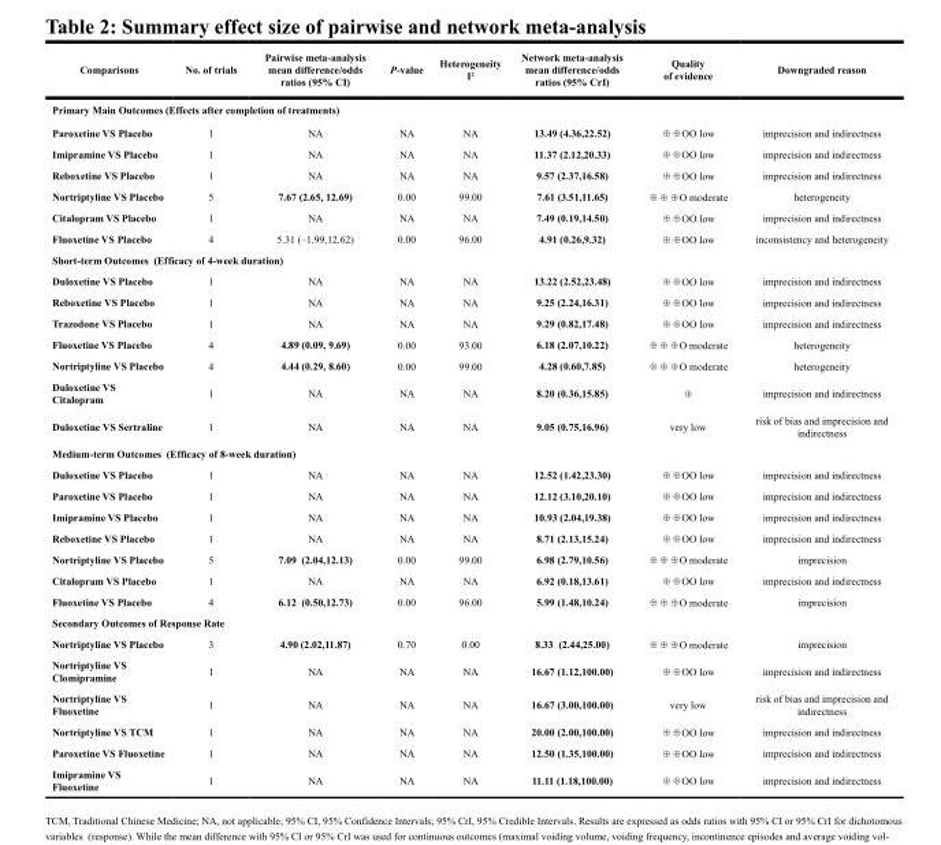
<table><thead><tr><td>Comparisons</td><td>No. of trials</td><td>Pairwise meta-analysis mean difference/odds ratios (95% CI)</td><td>P-value</td><td>Heterogeneity I<sup>2</sup></td><td>Network meta-analysis mean difference/odds ratios (95% CrI)</td><td>Quality of evidence</td><td>Downgraded reason</td></tr></thead><tbody><tr><td colspan="8">Primary Main Outcomes (Effects after completion of treatments)</td></tr><tr><td>Paroxetine VS Placebo</td><td>1</td><td>NA</td><td>NA</td><td>NA</td><td>13.49 (4.36,22.52)</td><td>⊕⊕OO low</td><td>imprecision and indirectness</td></tr><tr><td>Imipramine VS Placebo</td><td>1</td><td>NA</td><td>NA</td><td>NA</td><td>11.37 (2.12,20.33)</td><td>⊕⊕OO low</td><td>imprecision and indirectness</td></tr><tr><td>Reboxetine VS Placebo</td><td>1</td><td>NA</td><td>NA</td><td>NA</td><td>9.57 (2.37,16.58)</td><td>⊕⊕OO low</td><td>imprecision and indirectness</td></tr><tr><td>Nortriptyline VS Placebo</td><td>5</td><td>7.67 (2.65, 12.69)</td><td>0.00</td><td>99.00</td><td>7.61 (3.51,11.65)</td><td>⊕⊕⊕O moderate</td><td>heterogeneity</td></tr><tr><td>Citalopram VS Placebo</td><td>1</td><td>NA</td><td>NA</td><td>NA</td><td>7.49 (0.19,14.50)</td><td>⊕⊕OO low</td><td>imprecision and indirectness</td></tr><tr><td>Fluoxetine VS Placebo</td><td>4</td><td>5.31 (–1.99,12.62)</td><td>0.00</td><td>96.00</td><td>4.91 (0.26,9.32)</td><td>⊕⊕OO low</td><td>inconsistency and heterogeneity</td></tr><tr><td colspan="8">Short-term Outcomes (Efficacy of 4-week duration)</td></tr><tr><td>Duloxetine VS Placebo</td><td>1</td><td>NA</td><td>NA</td><td>NA</td><td>13.22 (2.52,23.48)</td><td>⊕⊕OO low</td><td>imprecision and indirectness</td></tr><tr><td>Reboxetine VS Placebo</td><td>1</td><td>NA</td><td>NA</td><td>NA</td><td>9.25 (2.24,16.31)</td><td>⊕⊕OO low</td><td>imprecision and indirectness</td></tr><tr><td>Trazodone VS Placebo</td><td>1</td><td>NA</td><td>NA</td><td>NA</td><td>9.29 (0.82,17.48)</td><td>⊕⊕OO low</td><td>imprecision and indirectness</td></tr><tr><td>Fluoxetine VS Placebo</td><td>4</td><td>4.89 (0.09, 9.69)</td><td>0.00</td><td>93.00</td><td>6.18 (2.07,10.22)</td><td>⊕⊕⊕O moderate</td><td>heterogeneity</td></tr><tr><td>Nortriptyline VS Placebo</td><td>4</td><td>4.44 (0.29, 8.60)</td><td>0.00</td><td>99.00</td><td>4.28 (0.60,7.85)</td><td>⊕⊕⊕O moderate</td><td>heterogeneity</td></tr><tr><td>Duloxetine VS Citalopram</td><td>1</td><td>NA</td><td>NA</td><td>NA</td><td>8.20 (0.36,15.85)</td><td>⊕</td><td>imprecision and indirectness</td></tr><tr><td>Duloxetine VS Sertraline</td><td>1</td><td>NA</td><td>NA</td><td>NA</td><td>9.05 (0.75,16.96)</td><td>very low</td><td>risk of bias and imprecision and indirectness</td></tr><tr><td colspan="8">Medium-term Outcomes (Efficacy of 8-week duration)</td></tr><tr><td>Duloxetine VS Placebo</td><td>1</td><td>NA</td><td>NA</td><td>NA</td><td>12.52 (1.42,23.30)</td><td>⊕⊕OO low</td><td>imprecision and indirectness</td></tr><tr><td>Paroxetine VS Placebo</td><td>1</td><td>NA</td><td>NA</td><td>NA</td><td>12.12 (3.10,20.10)</td><td>⊕⊕OO low</td><td>imprecision and indirectness</td></tr><tr><td>Imipramine VS Placebo</td><td>1</td><td>NA</td><td>NA</td><td>NA</td><td>10.93 (2.04,19.38)</td><td>⊕⊕OO low</td><td>imprecision and indirectness</td></tr><tr><td>Reboxetine VS Placebo</td><td>1</td><td>NA</td><td>NA</td><td>NA</td><td>8.71 (2.13,15.24)</td><td>⊕⊕OO low</td><td>imprecision and indirectness</td></tr><tr><td>Nortriptyline VS Placebo</td><td>5</td><td>7.09 (2.04,12.13)</td><td>0.00</td><td>99.00</td><td>6.98 (2.79,10.56)</td><td>⊕⊕⊕O moderate</td><td>imprecision</td></tr><tr><td>Citalopram VS Placebo</td><td>1</td><td>NA</td><td>NA</td><td>NA</td><td>6.92 (0.18,13.61)</td><td>⊕⊕OO low</td><td>imprecision and indirectness</td></tr><tr><td>Fluoxetine VS Placebo</td><td>4</td><td>6.12 (0.50,12.73)</td><td>0.00</td><td>96.00</td><td>5.99 (1.48,10.24)</td><td>⊕⊕⊕O moderate</td><td>imprecision</td></tr><tr><td colspan="8">Secondary Outcomes of Response Rate</td></tr><tr><td>Nortriptyline VS Placebo</td><td>3</td><td>4.90 (2.02,11.87)</td><td>0.70</td><td>0.00</td><td>8.33 (2.44,25.00)</td><td>⊕⊕⊕O moderate</td><td>imprecision</td></tr><tr><td>Nortriptyline VS Clomipramine</td><td>1</td><td>NA</td><td>NA</td><td>NA</td><td>16.67 (1.12,100.00)</td><td>⊕⊕OO low</td><td>imprecision and indirectness</td></tr><tr><td>Nortriptyline VS Fluoxetine</td><td>1</td><td>NA</td><td>NA</td><td>NA</td><td>16.67 (3.00,100.00)</td><td>very low</td><td>risk of bias and imprecision and indirectness</td></tr><tr><td>Nortriptyline VS TCM</td><td>1</td><td>NA</td><td>NA</td><td>NA</td><td>20.00 (2.00,100.00)</td><td>⊕⊕OO low</td><td>imprecision and indirectness</td></tr><tr><td>Paroxetine VS Fluoxetine</td><td>1</td><td>NA</td><td>NA</td><td>NA</td><td>12.50 (1.35,100.00)</td><td>⊕⊕OO low</td><td>imprecision and indirectness</td></tr><tr><td>Imipramine VS Fluoxetine</td><td>1</td><td>NA</td><td>NA</td><td>NA</td><td>11.11 (1.18,100.00)</td><td>⊕⊕OO low</td><td>imprecision and indirectness</td></tr></tbody></table>